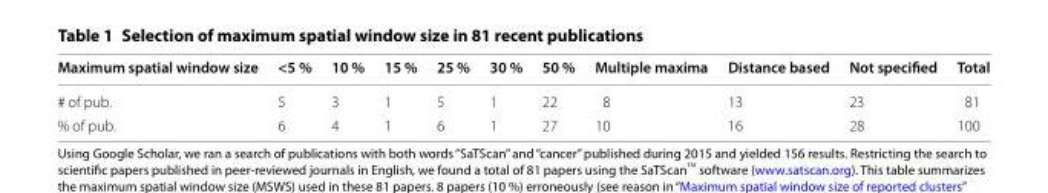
<table><thead><tr><td>Maximum spatial window size</td><td>&lt;5 %</td><td>10 %</td><td>15 %</td><td>25 %</td><td>30 %</td><td>50 %</td><td>Multiple maxima</td><td>Distance based</td><td>Not specified</td><td>Total</td></tr></thead><tbody><tr><td># of pub.</td><td>5</td><td>3</td><td>1</td><td>5</td><td>1</td><td>22</td><td>8</td><td>13</td><td>23</td><td>81</td></tr><tr><td>% of pub.</td><td>6</td><td>4</td><td>1</td><td>6</td><td>1</td><td>27</td><td>10</td><td>16</td><td>28</td><td>100</td></tr></tbody></table>